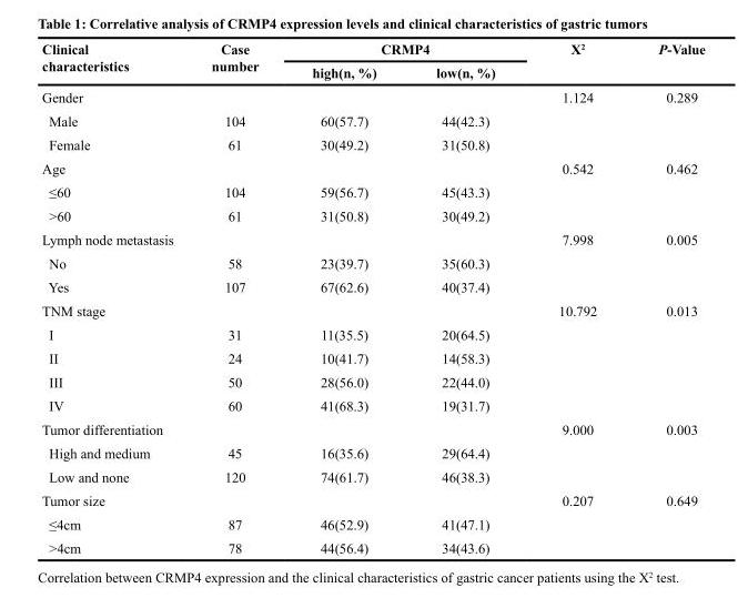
<table><thead><tr><td rowspan="2">Clinical characteristics</td><td rowspan="2">Case number</td><td colspan="2">CRMP4</td><td rowspan="2">Χ2</td><td rowspan="2">P-Value</td></tr><tr><td>high(n, %)</td><td>low(n, %)</td></tr></thead><tbody><tr><td>Gender</td><td></td><td></td><td></td><td>1.124</td><td>0.289</td></tr><tr><td>Male</td><td>104</td><td>60(57.7)</td><td>44(42.3)</td><td></td><td></td></tr><tr><td>Female</td><td>61</td><td>30(49.2)</td><td>31(50.8)</td><td></td><td></td></tr><tr><td>Age</td><td></td><td></td><td></td><td>0.542</td><td>0.462</td></tr><tr><td>≤60</td><td>104</td><td>59(56.7)</td><td>45(43.3)</td><td></td><td></td></tr><tr><td>&gt;60</td><td>61</td><td>31(50.8)</td><td>30(49.2)</td><td></td><td></td></tr><tr><td>Lymph node metastasis</td><td></td><td></td><td></td><td>7.998</td><td>0.005</td></tr><tr><td>No</td><td>58</td><td>23(39.7)</td><td>35(60.3)</td><td></td><td></td></tr><tr><td>Yes</td><td>107</td><td>67(62.6)</td><td>40(37.4)</td><td></td><td></td></tr><tr><td>TNM stage</td><td></td><td></td><td></td><td>10.792</td><td>0.013</td></tr><tr><td>I</td><td>31</td><td>11(35.5)</td><td>20(64.5)</td><td></td><td></td></tr><tr><td>II</td><td>24</td><td>10(41.7)</td><td>14(58.3)</td><td></td><td></td></tr><tr><td>III</td><td>50</td><td>28(56.0)</td><td>22(44.0)</td><td></td><td></td></tr><tr><td>IV</td><td>60</td><td>41(68.3)</td><td>19(31.7)</td><td></td><td></td></tr><tr><td>Tumor differentiation</td><td></td><td></td><td></td><td>9.000</td><td>0.003</td></tr><tr><td>High and medium</td><td>45</td><td>16(35.6)</td><td>29(64.4)</td><td></td><td></td></tr><tr><td>Low and none</td><td>120</td><td>74(61.7)</td><td>46(38.3)</td><td></td><td></td></tr><tr><td>Tumor size</td><td></td><td></td><td></td><td>0.207</td><td>0.649</td></tr><tr><td>≤4cm</td><td>87</td><td>46(52.9)</td><td>41(47.1)</td><td></td><td></td></tr><tr><td>&gt;4cm</td><td>78</td><td>44(56.4)</td><td>34(43.6)</td><td></td><td></td></tr></tbody></table>